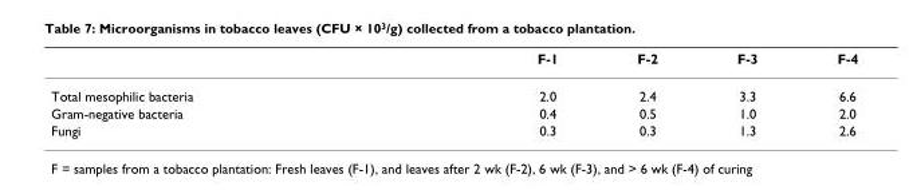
<table><thead><tr><td></td><td>F-1</td><td>F-2</td><td>F-3</td><td>F-4</td></tr></thead><tbody><tr><td>Total mesophilic bacteria</td><td>2.0</td><td>2.4</td><td>3.3</td><td>6.6</td></tr><tr><td>Gram-negative bacteria</td><td>0.4</td><td>0.5</td><td>1.0</td><td>2.0</td></tr><tr><td>Fungi</td><td>0.3</td><td>0.3</td><td>1.3</td><td>2.6</td></tr></tbody></table>